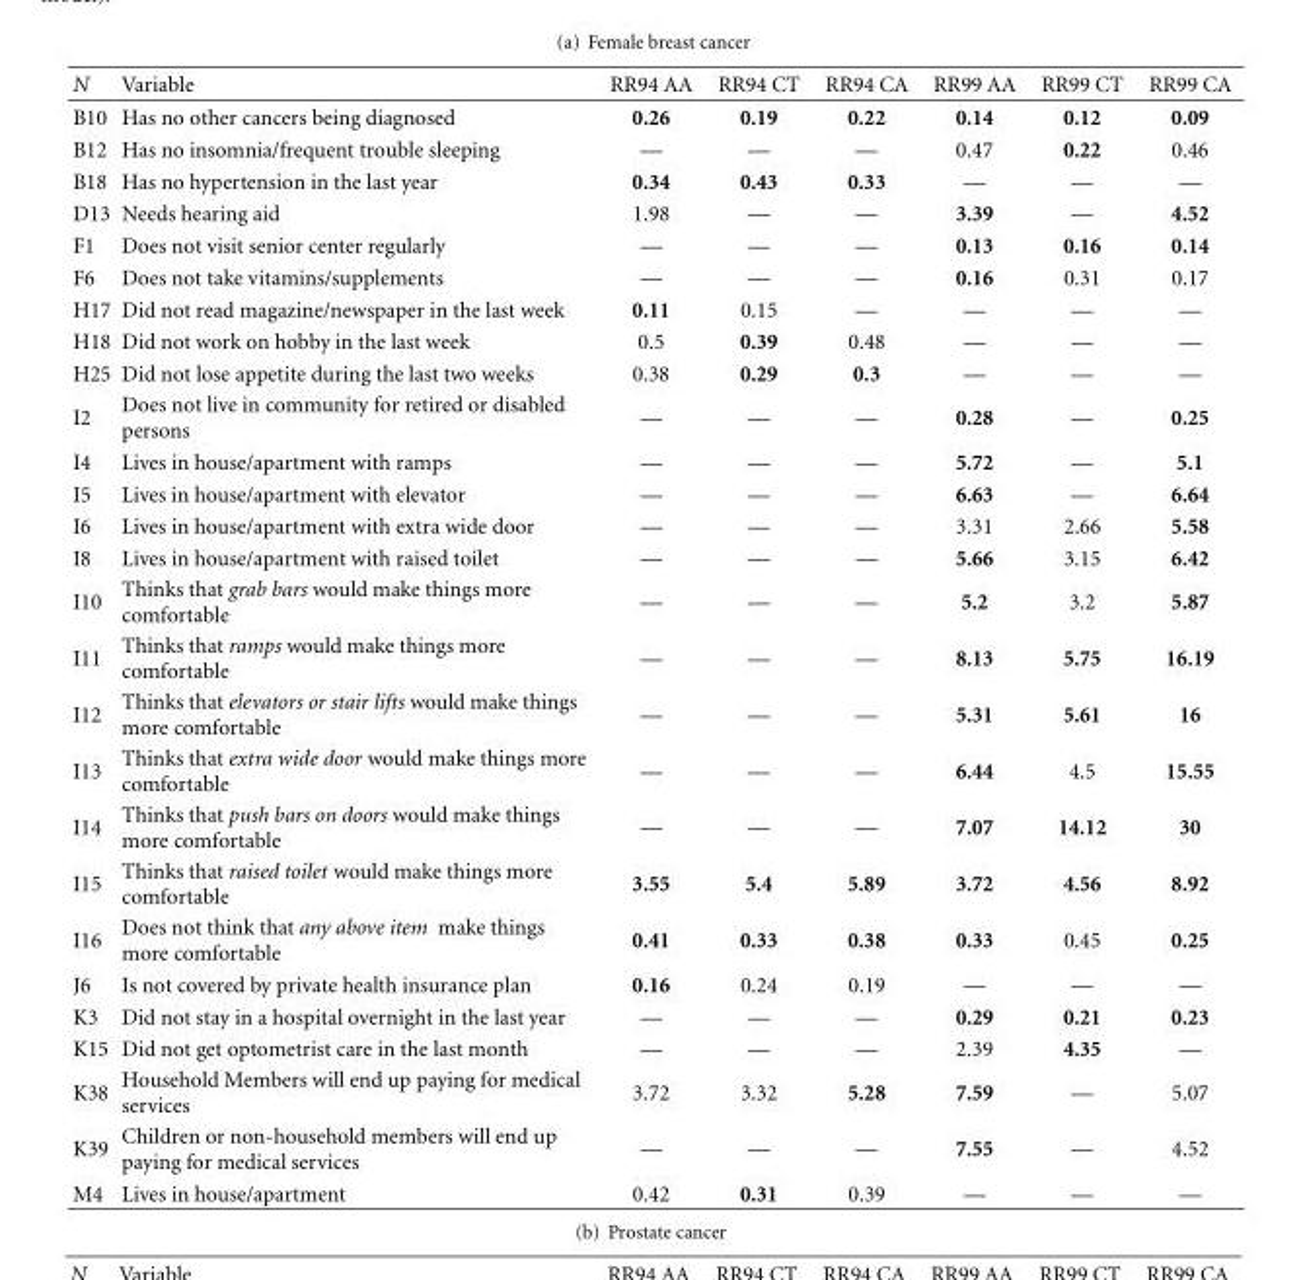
<table><thead><tr><td>N</td><td>Variable</td><td>RR94 AA</td><td>RR94 CT</td><td>RR94 CA</td><td>RR99 AA</td><td>RR99 CT</td><td>RR99 CA</td></tr></thead><tbody><tr><td>B10</td><td>Has no other cancers being diagnosed</td><td>0.26</td><td>0.19</td><td>0.22</td><td>0.14</td><td>0.12</td><td>0.09</td></tr><tr><td>B12</td><td>Has no insomnia/frequent trouble sleeping</td><td>—</td><td>—</td><td>—</td><td>0.47</td><td>0.22</td><td>0.46</td></tr><tr><td>B18</td><td>Has no hypertension in the last year</td><td>0.34</td><td>0.43</td><td>0.33</td><td>—</td><td>—</td><td>—</td></tr><tr><td>D13</td><td>Needs hearing aid</td><td>1.98</td><td>—</td><td>—</td><td>3.39</td><td>—</td><td>4.52</td></tr><tr><td>F1</td><td>Does not visit senior center regularly</td><td>—</td><td>—</td><td>—</td><td>0.13</td><td>0.16</td><td>0.14</td></tr><tr><td>F6</td><td>Does not take vitamins/supplements</td><td>—</td><td>—</td><td>—</td><td>0.16</td><td>0.31</td><td>0.17</td></tr><tr><td>H17</td><td>Did not read magazine/newspaper in the last week</td><td>0.11</td><td>0.15</td><td>—</td><td>—</td><td>—</td><td>—</td></tr><tr><td>H18</td><td>Did not work on hobby in the last week</td><td>0.5</td><td>0.39</td><td>0.48</td><td>—</td><td>—</td><td>—</td></tr><tr><td>H25</td><td>Did not lose appetite during the last two weeks</td><td>0.38</td><td>0.29</td><td>0.3</td><td>—</td><td>—</td><td>—</td></tr><tr><td>I2</td><td>Does not live in community for retired or disabled persons</td><td>—</td><td>—</td><td>—</td><td>0.28</td><td>—</td><td>0.25</td></tr><tr><td>I4</td><td>Lives in house/apartment with ramps</td><td>—</td><td>—</td><td>—</td><td>5.72</td><td>—</td><td>5.1</td></tr><tr><td>I5</td><td>Lives in house/apartment with elevator</td><td>—</td><td>—</td><td>—</td><td>6.63</td><td>—</td><td>6.64</td></tr><tr><td>I6</td><td>Lives in house/apartment with extra wide door</td><td>—</td><td>—</td><td>—</td><td>3.31</td><td>2.66</td><td>5.58</td></tr><tr><td>I8</td><td>Lives in house/apartment with raised toilet</td><td>—</td><td>—</td><td>—</td><td>5.66</td><td>3.15</td><td>6.42</td></tr><tr><td>I10</td><td>Thinks that grab bars would make things more comfortable</td><td>—</td><td>—</td><td>—</td><td>5.2</td><td>3.2</td><td>5.87</td></tr><tr><td>I11</td><td>Thinks that ramps would make things more comfortable</td><td>—</td><td>—</td><td>—</td><td>8.13</td><td>5.75</td><td>16.19</td></tr><tr><td>I12</td><td>Thinks that elevators or stair lifts would make things more comfortable</td><td>—</td><td>—</td><td>—</td><td>5.31</td><td>5.61</td><td>16</td></tr><tr><td>I13</td><td>Thinks that extra wide door would make things more comfortable</td><td>—</td><td>—</td><td>—</td><td>6.44</td><td>4.5</td><td>15.55</td></tr><tr><td>I14</td><td>Thinks that push bars on doors would make things more comfortable</td><td>—</td><td>—</td><td>—</td><td>7.07</td><td>14.12</td><td>30</td></tr><tr><td>I15</td><td>Thinks that raised toilet would make things more comfortable</td><td>3.55</td><td>5.4</td><td>5.89</td><td>3.72</td><td>4.56</td><td>8.92</td></tr><tr><td>I16</td><td>Does not think that any above item make things more comfortable</td><td>0.41</td><td>0.33</td><td>0.38</td><td>0.33</td><td>0.45</td><td>0.25</td></tr><tr><td>J6</td><td>Is not covered by private health insurance plan</td><td>0.16</td><td>0.24</td><td>0.19</td><td>—</td><td>—</td><td>—</td></tr><tr><td>K3</td><td>Did not stay in a hospital overnight in the last year</td><td>—</td><td>—</td><td>—</td><td>0.29</td><td>0.21</td><td>0.23</td></tr><tr><td>K15</td><td>Did not get optometrist care in the last month</td><td>—</td><td>—</td><td>—</td><td>2.39</td><td>4.35</td><td>—</td></tr><tr><td>K38</td><td>Household Members will end up paying for medical services</td><td>3.72</td><td>3.32</td><td>5.28</td><td>7.59</td><td>—</td><td>5.07</td></tr><tr><td>K39</td><td>Children or non-household members will end up paying for medical services</td><td>—</td><td>—</td><td>—</td><td>7.55</td><td>—</td><td>4.52</td></tr><tr><td>M4</td><td>Lives in house/apartment</td><td>0.42</td><td>0.31</td><td>0.39</td><td>—</td><td>—</td><td>—</td></tr></tbody></table>